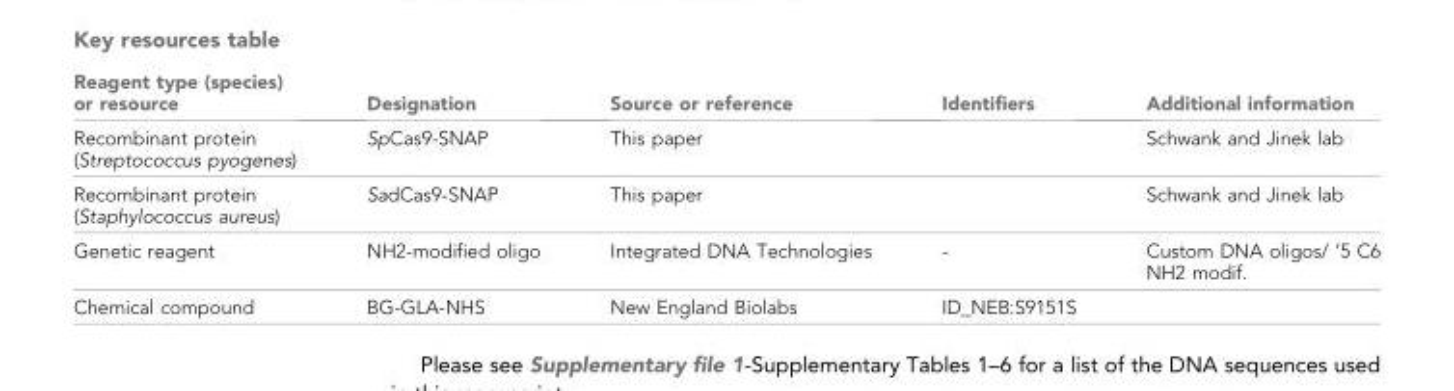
<table><thead><tr><td>Reagent type (species) or resource</td><td>Designation</td><td>Source or reference</td><td>Identifiers</td><td>Additional information</td></tr></thead><tbody><tr><td>Recombinant protein (Streptococcus pyogenes)</td><td>SpCas9-SNAP</td><td>This paper</td><td></td><td>Schwank and Jinek lab</td></tr><tr><td>Recombinant protein (Staphylococcus aureus)</td><td>SadCas9-SNAP</td><td>This paper</td><td></td><td>Schwank and Jinek lab</td></tr><tr><td>Genetic reagent</td><td>NH2-modified oligo</td><td>Integrated DNA Technologies</td><td>-</td><td>Custom DNA oligos/ ’5 C6 NH2 modif.</td></tr><tr><td>Chemical compound</td><td>BG-GLA-NHS</td><td>New England Biolabs</td><td>ID_NEB:S9151S</td><td></td></tr></tbody></table>